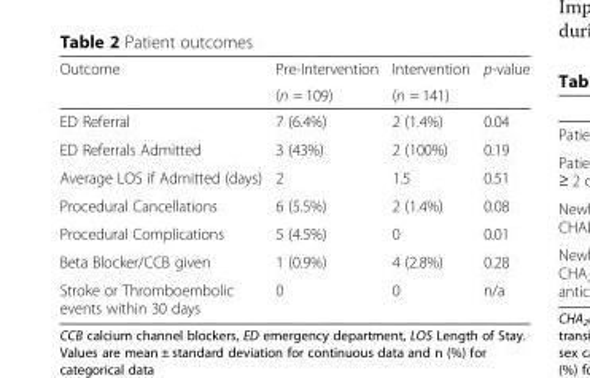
<table><thead><tr><td rowspan="2">Outcome</td><td rowspan="2">Pre-Intervention (n = 109)</td><td rowspan="2">Intervention (n = 141)</td><td rowspan="2">p-value</td></tr><tr></tr></thead><tbody><tr><td>ED Referral</td><td>7 (6.4%)</td><td>2 (1.4%)</td><td>0.04</td></tr><tr><td>ED Referrals Admitted</td><td>3 (43%)</td><td>2 (100%)</td><td>0.19</td></tr><tr><td>Average LOS if Admitted (days)</td><td>2</td><td>1.5</td><td>0.51</td></tr><tr><td>Procedural Cancellations</td><td>6 (5.5%)</td><td>2 (1.4%)</td><td>0.08</td></tr><tr><td>Procedural Complications</td><td>5 (4.5%)</td><td>0</td><td>0.01</td></tr><tr><td>Beta Blocker/CCB given</td><td>1 (0.9%)</td><td>4 (2.8%)</td><td>0.28</td></tr><tr><td>Stroke or Thromboembolic events within 30 days</td><td>0</td><td>0</td><td>n/a</td></tr></tbody></table>